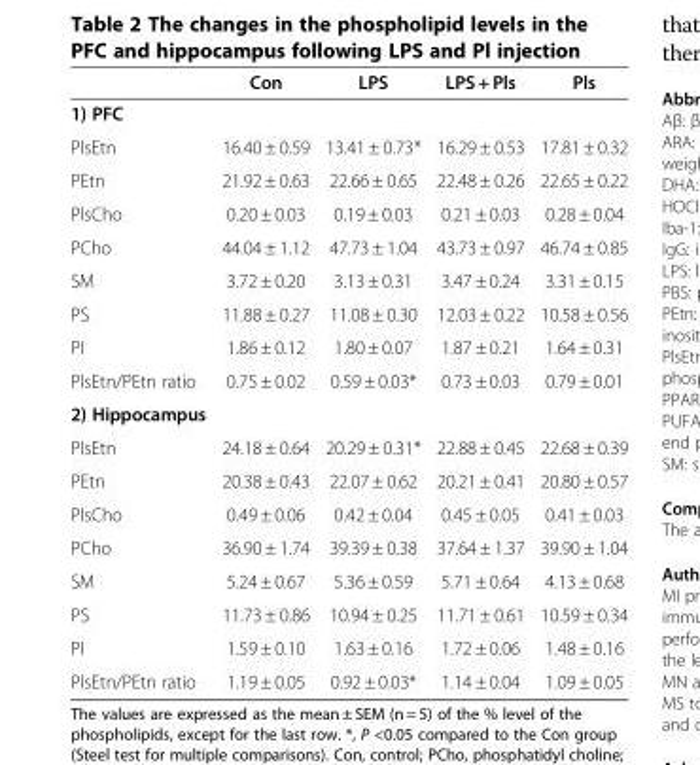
<table><thead><tr><td></td><td>Con</td><td>LPS</td><td>LPS + Pls</td><td>Pls</td></tr></thead><tbody><tr><td colspan="5">1) PFC</td></tr><tr><td>PlsEtn</td><td>16.40 ± 0.59</td><td>13.41 ± 0.73*</td><td>16.29 ± 0.53</td><td>17.81 ± 0.32</td></tr><tr><td>PEtn</td><td>21.92 ± 0.63</td><td>22.66 ± 0.65</td><td>22.48 ± 0.26</td><td>22.65 ± 0.22</td></tr><tr><td>PlsCho</td><td>0.20 ± 0.03</td><td>0.19 ± 0.03</td><td>0.21 ± 0.03</td><td>0.28 ± 0.04</td></tr><tr><td>PCho</td><td>44.04 ± 1.12</td><td>47.73 ± 1.04</td><td>43.73 ± 0.97</td><td>46.74 ± 0.85</td></tr><tr><td>SM</td><td>3.72 ± 0.20</td><td>3.13 ± 0.31</td><td>3.47 ± 0.24</td><td>3.31 ± 0.15</td></tr><tr><td>PS</td><td>11.88 ± 0.27</td><td>11.08 ± 0.30</td><td>12.03 ± 0.22</td><td>10.58 ± 0.56</td></tr><tr><td>PI</td><td>1.86 ± 0.12</td><td>1.80 ± 0.07</td><td>1.87 ± 0.21</td><td>1.64 ± 0.31</td></tr><tr><td>PlsEtn/PEtn ratio</td><td>0.75 ± 0.02</td><td>0.59 ± 0.03*</td><td>0.73 ± 0.03</td><td>0.79 ± 0.01</td></tr><tr><td colspan="5">2) Hippocampus</td></tr><tr><td>PlsEtn</td><td>24.18 ± 0.64</td><td>20.29 ± 0.31*</td><td>22.88 ± 0.45</td><td>22.68 ± 0.39</td></tr><tr><td>PEtn</td><td>20.38 ± 0.43</td><td>22.07 ± 0.62</td><td>20.21 ± 0.41</td><td>20.80 ± 0.57</td></tr><tr><td>PlsCho</td><td>0.49 ± 0.06</td><td>0.42 ± 0.04</td><td>0.45 ± 0.05</td><td>0.41 ± 0.03</td></tr><tr><td>PCho</td><td>36.90 ± 1.74</td><td>39.39 ± 0.38</td><td>37.64 ± 1.37</td><td>39.90 ± 1.04</td></tr><tr><td>SM</td><td>5.24 ± 0.67</td><td>5.36 ± 0.59</td><td>5.71 ± 0.64</td><td>4.13 ± 0.68</td></tr><tr><td>PS</td><td>11.73 ± 0.86</td><td>10.94 ± 0.25</td><td>11.71 ± 0.61</td><td>10.59 ± 0.34</td></tr><tr><td>PI</td><td>1.59 ± 0.10</td><td>1.63 ± 0.16</td><td>1.72 ± 0.06</td><td>1.48 ± 0.16</td></tr><tr><td>PlsEtn/PEtn ratio</td><td>1.19 ± 0.05</td><td>0.92 ± 0.03*</td><td>1.14 ± 0.04</td><td>1.09 ± 0.05</td></tr></tbody></table>